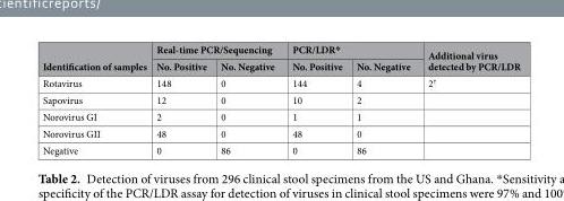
<table><thead><tr><td rowspan="2">Identification of samples</td><td colspan="2">Real-time PCR/Sequencing</td><td colspan="2">PCR/LDR*</td><td rowspan="2">Additional virus detected by PCR/LDR</td></tr><tr><td>No. Positive</td><td>No. Negative</td><td>No. Positive</td><td>No. Negative</td></tr></thead><tbody><tr><td>Rotavirus</td><td>148</td><td>0</td><td>144</td><td>4</td><td>2<sup>†</sup></td></tr><tr><td>Sapovirus</td><td>12</td><td>0</td><td>10</td><td>2</td><td></td></tr><tr><td>Norovirus GI</td><td>2</td><td>0</td><td>1</td><td>1</td><td></td></tr><tr><td>Norovirus GII</td><td>48</td><td>0</td><td>48</td><td>0</td><td></td></tr><tr><td>Negative</td><td>0</td><td>86</td><td>0</td><td>86</td><td></td></tr></tbody></table>